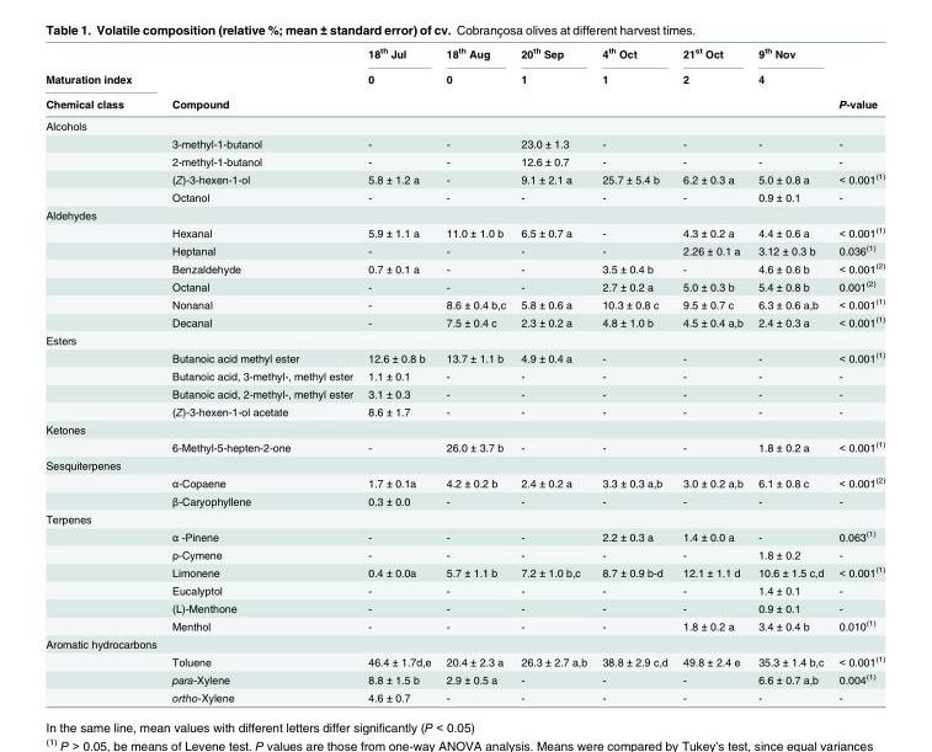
<table><thead><tr><td rowspan="3">Maturation index Chemical class</td><td rowspan="3">Compound</td><td rowspan="3">18<sup>th</sup> Jul 0</td><td rowspan="3">18<sup>th</sup> Aug 0</td><td rowspan="3">20<sup>th</sup> Sep 1</td><td rowspan="3">4<sup>th</sup> Oct 1</td><td rowspan="3">21<sup>st</sup> Oct 2</td><td rowspan="3">9<sup>th</sup> Nov 4</td><td rowspan="3">P-value</td></tr><tr></tr><tr></tr></thead><tbody><tr><td colspan="9">Alcohols</td></tr><tr><td></td><td>3-methyl-1-butanol</td><td>-</td><td>-</td><td>23.0 ± 1.3</td><td>-</td><td>-</td><td>-</td><td>-</td></tr><tr><td></td><td>2-methyl-1-butanol</td><td>-</td><td>-</td><td>12.6 ± 0.7</td><td>-</td><td>-</td><td>-</td><td>-</td></tr><tr><td></td><td>(Z)-3-hexen-1-ol</td><td>5.8 ± 1.2 a</td><td>-</td><td>9.1 ± 2.1 a</td><td>25.7 ± 5.4 b</td><td>6.2 ± 0.3 a</td><td>5.0 ± 0.8 a</td><td>&lt; 0.001<sup>(1)</sup></td></tr><tr><td></td><td>Octanol</td><td>-</td><td>-</td><td>-</td><td>-</td><td>-</td><td>0.9 ± 0.1</td><td>-</td></tr><tr><td colspan="9">Aldehydes</td></tr><tr><td></td><td>Hexanal</td><td>5.9 ± 1.1 a</td><td>11.0 ± 1.0 b</td><td>6.5 ± 0.7 a</td><td>-</td><td>4.3 ± 0.2 a</td><td>4.4 ± 0.6 a</td><td>&lt; 0.001<sup>(1)</sup></td></tr><tr><td></td><td>Heptanal</td><td>-</td><td>-</td><td>-</td><td>-</td><td>2.26 ± 0.1 a</td><td>3.12 ± 0.3 b</td><td>0.036<sup>(1)</sup></td></tr><tr><td></td><td>Benzaldehyde</td><td>0.7 ± 0.1 a</td><td>-</td><td>-</td><td>3.5 ± 0.4 b</td><td>-</td><td>4.6 ± 0.6 b</td><td>&lt; 0.001<sup>(2)</sup></td></tr><tr><td></td><td>Octanal</td><td>-</td><td>-</td><td>-</td><td>2.7 ± 0.2 a</td><td>5.0 ± 0.3 b</td><td>5.4 ± 0.8 b</td><td>0.001<sup>(2)</sup></td></tr><tr><td></td><td>Nonanal</td><td>-</td><td>8.6 ± 0.4 b,c</td><td>5.8 ± 0.6 a</td><td>10.3 ± 0.8 c</td><td>9.5 ± 0.7 c</td><td>6.3 ± 0.6 a,b</td><td>&lt; 0.001<sup>(1)</sup></td></tr><tr><td></td><td>Decanal</td><td>-</td><td>7.5 ± 0.4 c</td><td>2.3 ± 0.2 a</td><td>4.8 ± 1.0 b</td><td>4.5 ± 0.4 a,b</td><td>2.4 ± 0.3 a</td><td>&lt; 0.001<sup>(1)</sup></td></tr><tr><td colspan="9">Esters</td></tr><tr><td></td><td>Butanoic acid methyl ester</td><td>12.6 ± 0.8 b</td><td>13.7 ± 1.1 b</td><td>4.9 ± 0.4 a</td><td>-</td><td>-</td><td>-</td><td>&lt; 0.001<sup>(1)</sup></td></tr><tr><td></td><td>Butanoic acid, 3-methyl-, methyl ester</td><td>1.1 ± 0.1</td><td>-</td><td>-</td><td>-</td><td>-</td><td>-</td><td>-</td></tr><tr><td></td><td>Butanoic acid, 2-methyl-, methyl ester</td><td>3.1 ± 0.3</td><td>-</td><td>-</td><td>-</td><td>-</td><td>-</td><td>-</td></tr><tr><td></td><td>(Z)-3-hexen-1-ol acetate</td><td>8.6 ± 1.7</td><td>-</td><td>-</td><td>-</td><td>-</td><td>-</td><td>-</td></tr><tr><td colspan="9">Ketones</td></tr><tr><td></td><td>6-Methyl-5-hepten-2-one</td><td>-</td><td>26.0 ± 3.7 b</td><td>-</td><td>-</td><td>-</td><td>1.8 ± 0.2 a</td><td>&lt; 0.001<sup>(1)</sup></td></tr><tr><td colspan="9">Sesquiterpenes</td></tr><tr><td></td><td>α-Copaene</td><td>1.7 ± 0.1a</td><td>4.2 ± 0.2 b</td><td>2.4 ± 0.2 a</td><td>3.3 ± 0.3 a,b</td><td>3.0 ± 0.2 a,b</td><td>6.1 ± 0.8 c</td><td>&lt; 0.001<sup>(2)</sup></td></tr><tr><td></td><td>β-Caryophyllene</td><td>0.3 ± 0.0</td><td>-</td><td>-</td><td>-</td><td>-</td><td>-</td><td>-</td></tr><tr><td colspan="9">Terpenes</td></tr><tr><td></td><td>α -Pinene</td><td>-</td><td>-</td><td>-</td><td>2.2 ± 0.3 a</td><td>1.4 ± 0.0 a</td><td>-</td><td>0.063<sup>(1)</sup></td></tr><tr><td></td><td>ρ-Cymene</td><td>-</td><td>-</td><td>-</td><td>-</td><td>-</td><td>1.8 ± 0.2</td><td>-</td></tr><tr><td></td><td>Limonene</td><td>0.4 ± 0.0a</td><td>5.7 ± 1.1 b</td><td>7.2 ± 1.0 b,c</td><td>8.7 ± 0.9 b-d</td><td>12.1 ± 1.1 d</td><td>10.6 ± 1.5 c,d</td><td>&lt; 0.001<sup>(1)</sup></td></tr><tr><td></td><td>Eucalyptol</td><td>-</td><td>-</td><td>-</td><td>-</td><td>-</td><td>1.4 ± 0.1</td><td>-</td></tr><tr><td></td><td>(L)-Menthone</td><td>-</td><td>-</td><td>-</td><td>-</td><td>-</td><td>0.9 ± 0.1</td><td>-</td></tr><tr><td></td><td>Menthol</td><td>-</td><td>-</td><td>-</td><td>-</td><td>1.8 ± 0.2 a</td><td>3.4 ± 0.4 b</td><td>0.010<sup>(1)</sup></td></tr><tr><td colspan="9">Aromatic hydrocarbons</td></tr><tr><td></td><td>Toluene</td><td>46.4 ± 1.7d,e</td><td>20.4 ± 2.3 a</td><td>26.3 ± 2.7 a,b</td><td>38.8 ± 2.9 c,d</td><td>49.8 ± 2.4 e</td><td>35.3 ± 1.4 b,c</td><td>&lt; 0.001<sup>(1)</sup></td></tr><tr><td></td><td>para-Xylene</td><td>8.8 ± 1.5 b</td><td>2.9 ± 0.5 a</td><td>-</td><td>-</td><td>-</td><td>6.6 ± 0.7 a,b</td><td>0.004<sup>(1)</sup></td></tr><tr><td></td><td>ortho-Xylene</td><td>4.6 ± 0.7</td><td>-</td><td>-</td><td>-</td><td>-</td><td>-</td><td>-</td></tr></tbody></table>